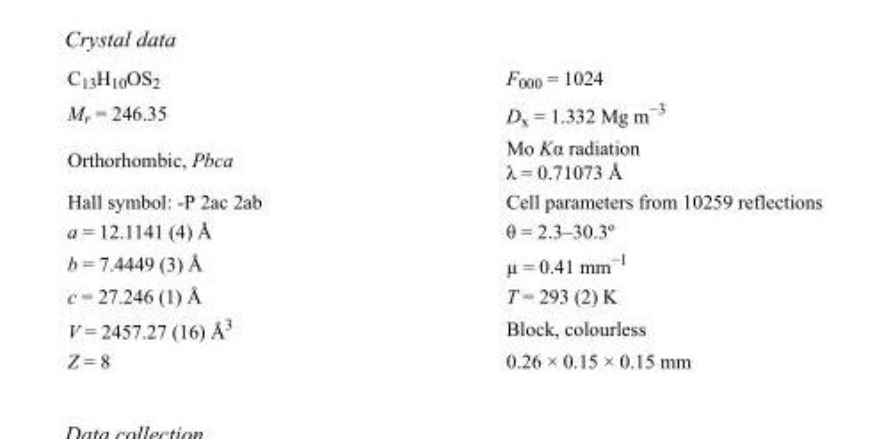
<table><tbody><tr><td>C<sub>13</sub>H<sub>10</sub>OS<sub>2</sub></td><td>F<sub>000</sub> = 1024</td></tr><tr><td>M<sub>r</sub> = 246.35</td><td>D<sub>x</sub> = 1.332 Mg m<sup>−3</sup></td></tr><tr><td>Orthorhombic, Pbca</td><td>Mo Kα radiation λ = 0.71073 Å</td></tr><tr><td>Hall symbol: -P 2ac 2ab</td><td>Cell parameters from 10259 reflections</td></tr><tr><td>a = 12.1141 (4) Å</td><td>θ = 2.3–30.3º</td></tr><tr><td>b = 7.4449 (3) Å</td><td>µ = 0.41 mm<sup>−1</sup></td></tr><tr><td>c = 27.246 (1) Å</td><td>T = 293 (2) K</td></tr><tr><td>V = 2457.27 (16) Å<sup>3</sup></td><td>Block, colourless</td></tr><tr><td>Z = 8</td><td>0.26 × 0.15 × 0.15 mm</td></tr></tbody></table>